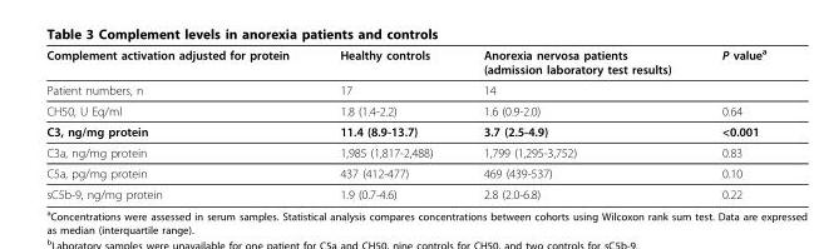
<table><thead><tr><td>Complement activation adjusted for protein</td><td>Healthy controls</td><td>Anorexia nervosa patients (admission laboratory test results)</td><td>P value<sup>a</sup></td></tr></thead><tbody><tr><td>Patient numbers, n</td><td>17</td><td>14</td><td></td></tr><tr><td>CH50, U Eq/ml</td><td>1.8 (1.4-2.2)</td><td>1.6 (0.9-2.0)</td><td>0.64</td></tr><tr><td>C3, ng/mg protein</td><td>11.4 (8.9-13.7)</td><td>3.7 (2.5-4.9)</td><td>&lt;0.001</td></tr><tr><td>C3a, ng/mg protein</td><td>1,985 (1,817-2,488)</td><td>1,799 (1,295-3,752)</td><td>0.83</td></tr><tr><td>C5a, pg/mg protein</td><td>437 (412-477)</td><td>469 (439-537)</td><td>0.10</td></tr><tr><td>sC5b-9, ng/mg protein</td><td>1.9 (0.7-4.6)</td><td>2.8 (2.0-6.8)</td><td>0.22</td></tr></tbody></table>